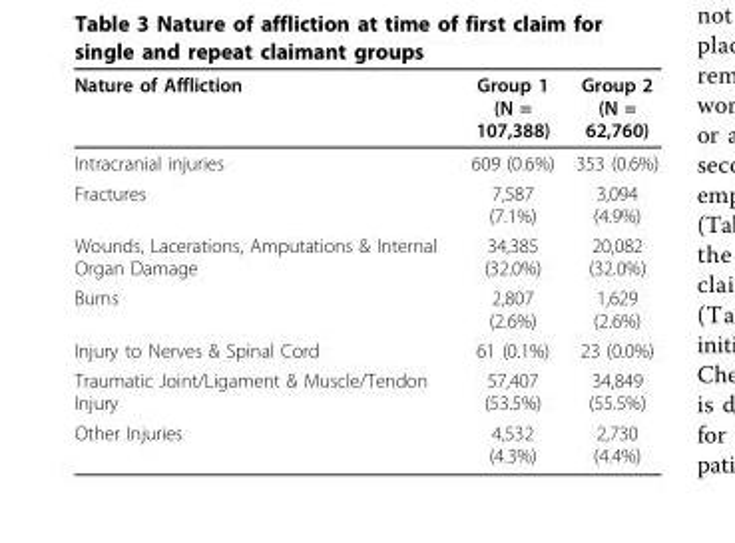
<table><thead><tr><td>Nature of Affliction</td><td>Group 1 (N = 107,388)</td><td>Group 2 (N = 62,760)</td></tr></thead><tbody><tr><td>Intracranial injuries</td><td>609 (0.6%)</td><td>353 (0.6%)</td></tr><tr><td>Fractures</td><td>7,587 (7.1%)</td><td>3,094 (4.9%)</td></tr><tr><td>Wounds, Lacerations, Amputations &amp; Internal Organ Damage</td><td>34,385 (32.0%)</td><td>20,082 (32.0%)</td></tr><tr><td>Burns</td><td>2,807 (2.6%)</td><td>1,629 (2.6%)</td></tr><tr><td>Injury to Nerves &amp; Spinal Cord</td><td>61 (0.1%)</td><td>23 (0.0%)</td></tr><tr><td>Traumatic Joint/Ligament &amp; Muscle/Tendon Injury</td><td>57,407 (53.5%)</td><td>34,849 (55.5%)</td></tr><tr><td>Other Injuries</td><td>4,532 (4.3%)</td><td>2,730 (4.4%)</td></tr></tbody></table>